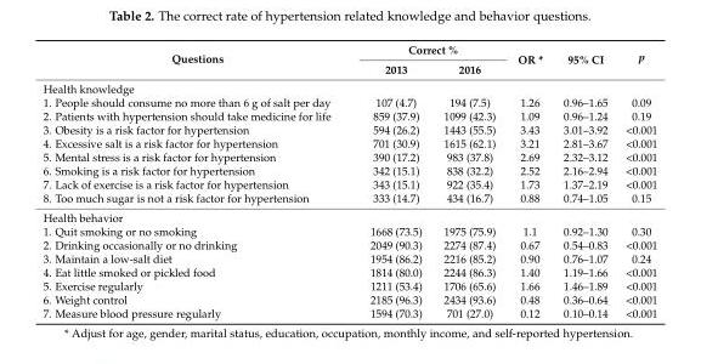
<table><thead><tr><td rowspan="2">Questions</td><td colspan="2">Correct %</td><td rowspan="2">OR *</td><td rowspan="2">95% CI</td><td rowspan="2">p</td></tr><tr><td>2013</td><td>2016</td></tr></thead><tbody><tr><td colspan="6">Health knowledge</td></tr><tr><td>1. People should consume no more than 6 g of salt per day</td><td>107 (4.7)</td><td>194 (7.5)</td><td>1.26</td><td>0.96–1.65</td><td>0.09</td></tr><tr><td>2. Patients with hypertension should take medicine for life</td><td>859 (37.9)</td><td>1099 (42.3)</td><td>1.09</td><td>0.96–1.24</td><td>0.19</td></tr><tr><td>3. Obesity is a risk factor for hypertension</td><td>594 (26.2)</td><td>1443 (55.5)</td><td>3.43</td><td>3.01–3.92</td><td>&lt;0.001</td></tr><tr><td>4. Excessive salt is a risk factor for hypertension</td><td>701 (30.9)</td><td>1615 (62.1)</td><td>3.21</td><td>2.81–3.67</td><td>&lt;0.001</td></tr><tr><td>5. Mental stress is a risk factor for hypertension</td><td>390 (17.2)</td><td>983 (37.8)</td><td>2.69</td><td>2.32–3.12</td><td>&lt;0.001</td></tr><tr><td>6. Smoking is a risk factor for hypertension</td><td>342 (15.1)</td><td>838 (32.2)</td><td>2.52</td><td>2.16–2.94</td><td>&lt;0.001</td></tr><tr><td>7. Lack of exercise is a risk factor for hypertension</td><td>343 (15.1)</td><td>922 (35.4)</td><td>1.73</td><td>1.37–2.19</td><td>&lt;0.001</td></tr><tr><td>8. Too much sugar is not a risk factor for hypertension</td><td>333 (14.7)</td><td>434 (16.7)</td><td>0.88</td><td>0.74–1.05</td><td>0.15</td></tr><tr><td colspan="6">Health behavior</td></tr><tr><td>1. Quit smoking or no smoking</td><td>1668 (73.5)</td><td>1975 (75.9)</td><td>1.1</td><td>0.92–1.30</td><td>0.30</td></tr><tr><td>2. Drinking occasionally or no drinking</td><td>2049 (90.3)</td><td>2274 (87.4)</td><td>0.67</td><td>0.54–0.83</td><td>&lt;0.001</td></tr><tr><td>3. Maintain a low-salt diet</td><td>1954 (86.2)</td><td>2216 (85.2)</td><td>0.90</td><td>0.76–1.07</td><td>0.24</td></tr><tr><td>4. Eat little smoked or pickled food</td><td>1814 (80.0)</td><td>2244 (86.3)</td><td>1.40</td><td>1.19–1.66</td><td>&lt;0.001</td></tr><tr><td>5. Exercise regularly</td><td>1211 (53.4)</td><td>1706 (65.6)</td><td>1.66</td><td>1.46–1.89</td><td>&lt;0.001</td></tr><tr><td>6. Weight control</td><td>2185 (96.3)</td><td>2434 (93.6)</td><td>0.48</td><td>0.36–0.64</td><td>&lt;0.001</td></tr><tr><td>7. Measure blood pressure regularly</td><td>1594 (70.3)</td><td>701 (27.0)</td><td>0.12</td><td>0.10–0.14</td><td>&lt;0.001</td></tr></tbody></table>